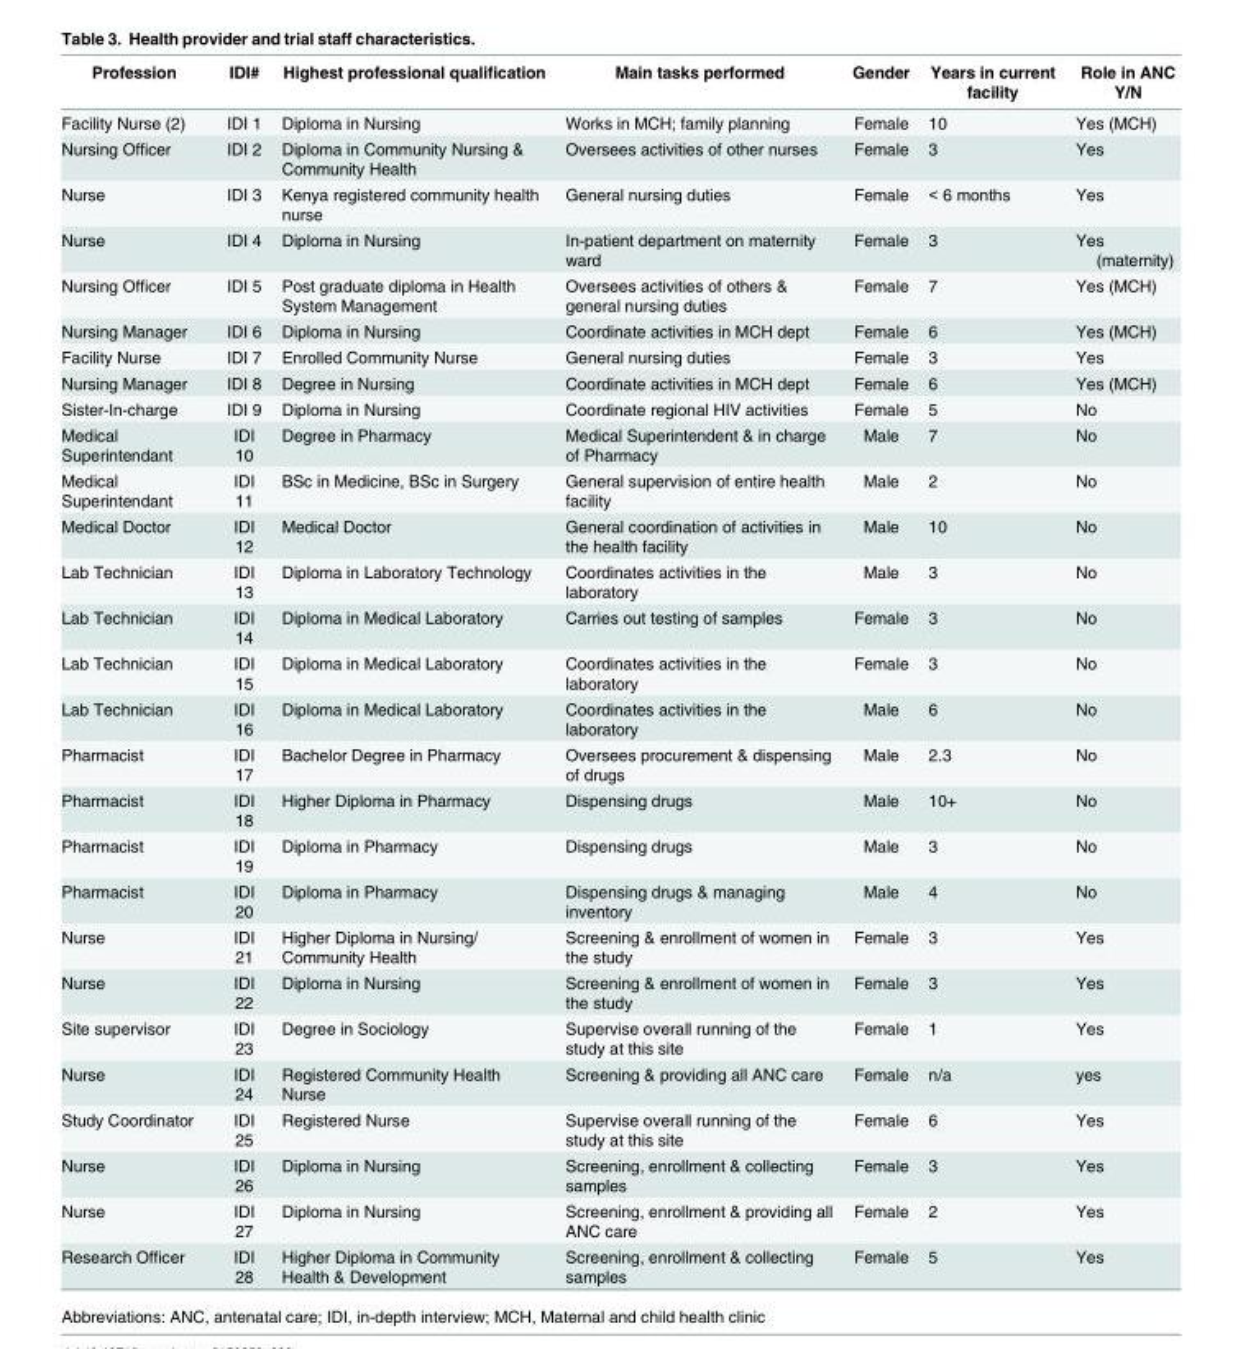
<table><thead><tr><td>Profession</td><td>IDI#</td><td>Highest professional qualification</td><td>Main tasks performed</td><td>Gender</td><td>Years in current facility</td><td>Role in ANC Y/N</td></tr></thead><tbody><tr><td>Facility Nurse (2)</td><td>IDI 1</td><td>Diploma in Nursing</td><td>Works in MCH; family planning</td><td>Female</td><td>10</td><td>Yes (MCH)</td></tr><tr><td>Nursing Officer</td><td>IDI 2</td><td>Diploma in Community Nursing &amp; Community Health</td><td>Oversees activities of other nurses</td><td>Female</td><td>3</td><td>Yes</td></tr><tr><td>Nurse</td><td>IDI 3</td><td>Kenya registered community health nurse</td><td>General nursing duties</td><td>Female</td><td>&lt; 6 months</td><td>Yes</td></tr><tr><td>Nurse</td><td>IDI 4</td><td>Diploma in Nursing</td><td>In-patient department on maternity ward</td><td>Female</td><td>3</td><td>Yes (maternity)</td></tr><tr><td>Nursing Officer</td><td>IDI 5</td><td>Post graduate diploma in Health System Management</td><td>Oversees activities of others &amp; general nursing duties</td><td>Female</td><td>7</td><td>Yes (MCH)</td></tr><tr><td>Nursing Manager</td><td>IDI 6</td><td>Diploma in Nursing</td><td>Coordinate activities in MCH dept</td><td>Female</td><td>6</td><td>Yes (MCH)</td></tr><tr><td>Facility Nurse</td><td>IDI 7</td><td>Enrolled Community Nurse</td><td>General nursing duties</td><td>Female</td><td>3</td><td>Yes</td></tr><tr><td>Nursing Manager</td><td>IDI 8</td><td>Degree in Nursing</td><td>Coordinate activities in MCH dept</td><td>Female</td><td>6</td><td>Yes (MCH)</td></tr><tr><td>Sister-In-charge</td><td>IDI 9</td><td>Diploma in Nursing</td><td>Coordinate regional HIV activities</td><td>Female</td><td>5</td><td>No</td></tr><tr><td>Medical Superintendant</td><td>IDI 10</td><td>Degree in Pharmacy</td><td>Medical Superintendent &amp; in charge of Pharmacy</td><td>Male</td><td>7</td><td>No</td></tr><tr><td>Medical Superintendant</td><td>IDI 11</td><td>BSc in Medicine, BSc in Surgery</td><td>General supervision of entire health facility</td><td>Male</td><td>2</td><td>No</td></tr><tr><td>Medical Doctor</td><td>IDI 12</td><td>Medical Doctor</td><td>General coordination of activities in the health facility</td><td>Male</td><td>10</td><td>No</td></tr><tr><td>Lab Technician</td><td>IDI 13</td><td>Diploma in Laboratory Technology</td><td>Coordinates activities in the laboratory</td><td>Male</td><td>3</td><td>No</td></tr><tr><td>Lab Technician</td><td>IDI 14</td><td>Diploma in Medical Laboratory</td><td>Carries out testing of samples</td><td>Female</td><td>3</td><td>No</td></tr><tr><td>Lab Technician</td><td>IDI 15</td><td>Diploma in Medical Laboratory</td><td>Coordinates activities in the laboratory</td><td>Female</td><td>3</td><td>No</td></tr><tr><td>Lab Technician</td><td>IDI 16</td><td>Diploma in Medical Laboratory</td><td>Coordinates activities in the laboratory</td><td>Male</td><td>6</td><td>No</td></tr><tr><td>Pharmacist</td><td>IDI 17</td><td>Bachelor Degree in Pharmacy</td><td>Oversees procurement &amp; dispensing of drugs</td><td>Male</td><td>2.3</td><td>No</td></tr><tr><td>Pharmacist</td><td>IDI 18</td><td>Higher Diploma in Pharmacy</td><td>Dispensing drugs</td><td>Male</td><td>10+</td><td>No</td></tr><tr><td>Pharmacist</td><td>IDI 19</td><td>Diploma in Pharmacy</td><td>Dispensing drugs</td><td>Male</td><td>3</td><td>No</td></tr><tr><td>Pharmacist</td><td>IDI 20</td><td>Diploma in Pharmacy</td><td>Dispensing drugs &amp; managing inventory</td><td>Male</td><td>4</td><td>No</td></tr><tr><td>Nurse</td><td>IDI 21</td><td>Higher Diploma in Nursing/ Community Health</td><td>Screening &amp; enrollment of women in the study</td><td>Female</td><td>3</td><td>Yes</td></tr><tr><td>Nurse</td><td>IDI 22</td><td>Diploma in Nursing</td><td>Screening &amp; enrollment of women in the study</td><td>Female</td><td>3</td><td>Yes</td></tr><tr><td>Site supervisor</td><td>IDI 23</td><td>Degree in Sociology</td><td>Supervise overall running of the study at this site</td><td>Female</td><td>1</td><td>Yes</td></tr><tr><td>Nurse</td><td>IDI 24</td><td>Registered Community Health Nurse</td><td>Screening &amp; providing all ANC care</td><td>Female</td><td>n/a</td><td>yes</td></tr><tr><td>Study Coordinator</td><td>IDI 25</td><td>Registered Nurse</td><td>Supervise overall running of the study at this site</td><td>Female</td><td>6</td><td>Yes</td></tr><tr><td>Nurse</td><td>IDI 26</td><td>Diploma in Nursing</td><td>Screening, enrollment &amp; collecting samples</td><td>Female</td><td>3</td><td>Yes</td></tr><tr><td>Nurse</td><td>IDI 27</td><td>Diploma in Nursing</td><td>Screening, enrollment &amp; providing all ANC care</td><td>Female</td><td>2</td><td>Yes</td></tr><tr><td>Research Officer</td><td>IDI 28</td><td>Higher Diploma in Community Health &amp; Development</td><td>Screening, enrollment &amp; collecting samples</td><td>Female</td><td>5</td><td>Yes</td></tr></tbody></table>